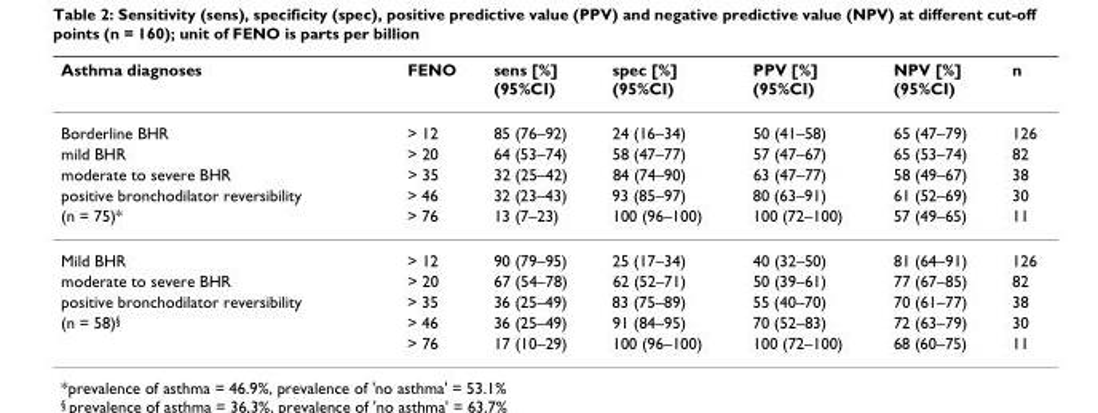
<table><thead><tr><td>Asthma diagnoses</td><td>FENO</td><td>sens [%] (95%CI)</td><td>spec [%] (95%CI)</td><td>PPV [%] (95%CI)</td><td>NPV [%] (95%CI)</td><td>n</td></tr></thead><tbody><tr><td>Borderline BHR</td><td>&gt; 12</td><td>85 (76–92)</td><td>24 (16–34)</td><td>50 (41–58)</td><td>65 (47–79)</td><td>126</td></tr><tr><td>mild BHR</td><td>&gt; 20</td><td>64 (53–74)</td><td>58 (47–77)</td><td>57 (47–67)</td><td>65 (53–74)</td><td>82</td></tr><tr><td>moderate to severe BHR</td><td>&gt; 35</td><td>32 (25–42)</td><td>84 (74–90)</td><td>63 (47–77)</td><td>58 (49–67)</td><td>38</td></tr><tr><td>positive bronchodilator reversibility</td><td>&gt; 46</td><td>32 (23–43)</td><td>93 (85–97)</td><td>80 (63–91)</td><td>61 (52–69)</td><td>30</td></tr><tr><td>(n = 75)*</td><td>&gt; 76</td><td>13 (7–23)</td><td>100 (96–100)</td><td>100 (72–100)</td><td>57 (49–65)</td><td>11</td></tr><tr><td>Mild BHR</td><td>&gt; 12</td><td>90 (79–95)</td><td>25 (17–34)</td><td>40 (32–50)</td><td>81 (64–91)</td><td>126</td></tr><tr><td>moderate to severe BHR</td><td>&gt; 20</td><td>67 (54–78)</td><td>62 (52–71)</td><td>50 (39–61)</td><td>77 (67–85)</td><td>82</td></tr><tr><td>positive bronchodilator reversibility</td><td>&gt; 35</td><td>36 (25–49)</td><td>83 (75–89)</td><td>55 (40–70)</td><td>70 (61–77)</td><td>38</td></tr><tr><td rowspan="2">(n = 58)<sup>§</sup></td><td>&gt; 46</td><td>36 (25–49)</td><td>91 (84–95)</td><td>70 (52–83)</td><td>72 (63–79)</td><td>30</td></tr><tr><td>&gt; 76</td><td>17 (10–29)</td><td>100 (96–100)</td><td>100 (72–100)</td><td>68 (60–75)</td><td>11</td></tr></tbody></table>